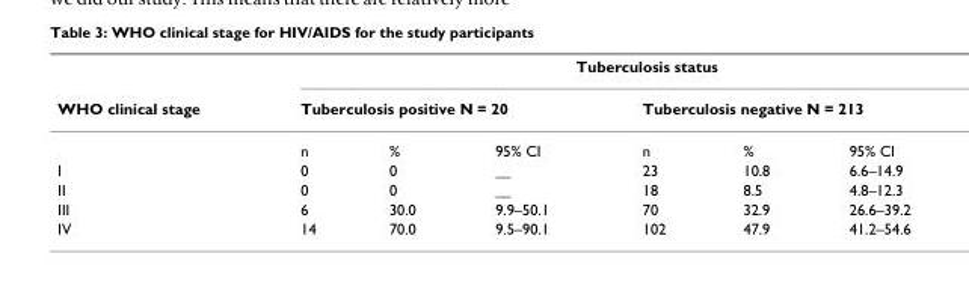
<table><thead><tr><td rowspan="3">WHO clinical stage</td><td colspan="6">Tuberculosis status</td></tr><tr><td colspan="3">Tuberculosis positive N = 20</td><td colspan="3">Tuberculosis negative N = 213</td></tr><tr><td>n</td><td>%</td><td>95% CI</td><td>n</td><td>%</td><td>95% CI</td></tr></thead><tbody><tr><td>I</td><td>0</td><td>0</td><td>__</td><td>23</td><td>10.8</td><td>6.6–14.9</td></tr><tr><td>II</td><td>0</td><td>0</td><td>__</td><td>18</td><td>8.5</td><td>4.8–12.3</td></tr><tr><td>III</td><td>6</td><td>30.0</td><td>9.9–50.1</td><td>70</td><td>32.9</td><td>26.6–39.2</td></tr><tr><td>IV</td><td>14</td><td>70.0</td><td>9.5–90.1</td><td>102</td><td>47.9</td><td>41.2–54.6</td></tr></tbody></table>